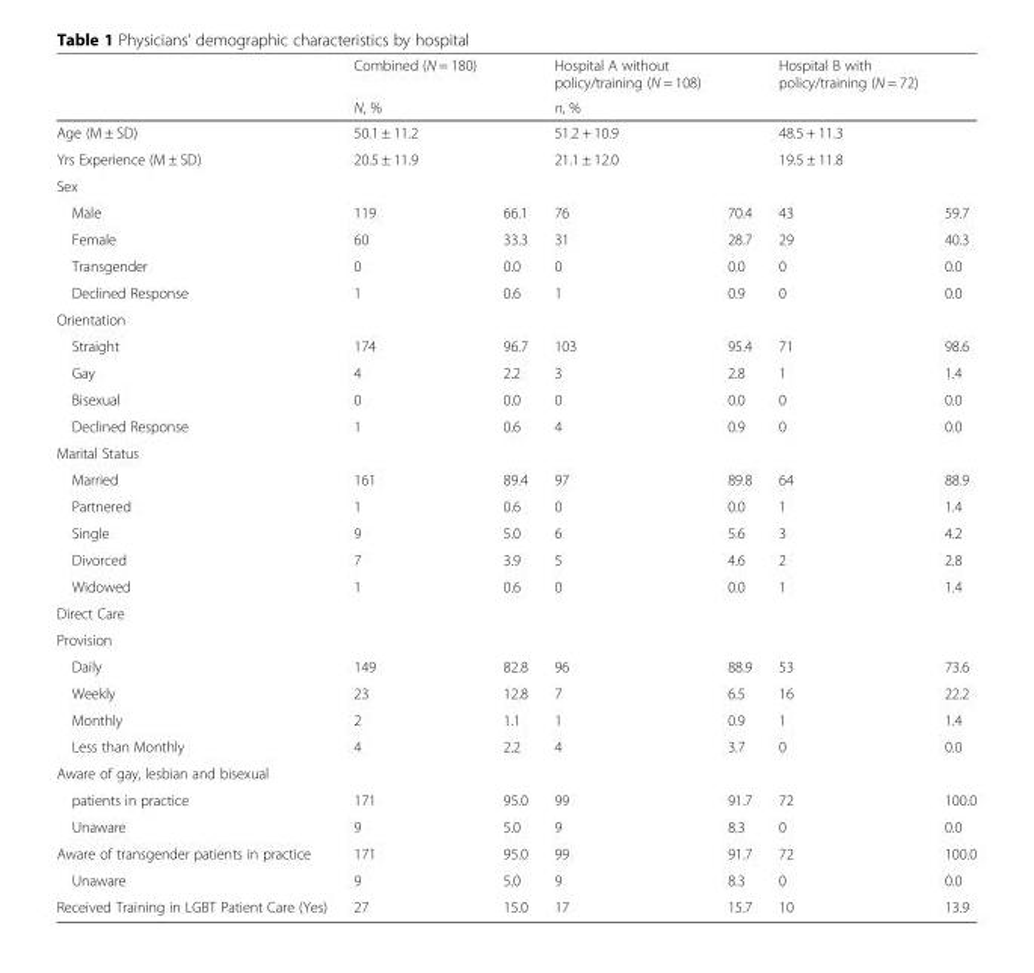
<table><thead><tr><td rowspan="2"></td><td>Combined (N = 180)</td><td></td><td>Hospital A without policy/training (N = 108)</td><td></td><td>Hospital B with policy/training (N = 72)</td><td></td></tr><tr><td colspan="2">N, %</td><td colspan="4">n, %</td></tr></thead><tbody><tr><td>Age (M ± SD)</td><td colspan="2">50.1 ± 11.2</td><td colspan="2">51.2 + 10.9</td><td colspan="2">48.5 + 11.3</td></tr><tr><td>Yrs Experience (M ± SD)</td><td colspan="2">20.5 ± 11.9</td><td colspan="2">21.1 ± 12.0</td><td colspan="2">19.5 ± 11.8</td></tr><tr><td colspan="7">Sex</td></tr><tr><td>Male</td><td>119</td><td>66.1</td><td>76</td><td>70.4</td><td>43</td><td>59.7</td></tr><tr><td>Female</td><td>60</td><td>33.3</td><td>31</td><td>28.7</td><td>29</td><td>40.3</td></tr><tr><td>Transgender</td><td>0</td><td>0.0</td><td>0</td><td>0.0</td><td>0</td><td>0.0</td></tr><tr><td>Declined Response</td><td>1</td><td>0.6</td><td>1</td><td>0.9</td><td>0</td><td>0.0</td></tr><tr><td colspan="7">Orientation</td></tr><tr><td>Straight</td><td>174</td><td>96.7</td><td>103</td><td>95.4</td><td>71</td><td>98.6</td></tr><tr><td>Gay</td><td>4</td><td>2.2</td><td>3</td><td>2.8</td><td>1</td><td>1.4</td></tr><tr><td>Bisexual</td><td>0</td><td>0.0</td><td>0</td><td>0.0</td><td>0</td><td>0.0</td></tr><tr><td>Declined Response</td><td>1</td><td>0.6</td><td>4</td><td>0.9</td><td>0</td><td>0.0</td></tr><tr><td colspan="7">Marital Status</td></tr><tr><td>Married</td><td>161</td><td>89.4</td><td>97</td><td>89.8</td><td>64</td><td>88.9</td></tr><tr><td>Partnered</td><td>1</td><td>0.6</td><td>0</td><td>0.0</td><td>1</td><td>1.4</td></tr><tr><td>Single</td><td>9</td><td>5.0</td><td>6</td><td>5.6</td><td>3</td><td>4.2</td></tr><tr><td>Divorced</td><td>7</td><td>3.9</td><td>5</td><td>4.6</td><td>2</td><td>2.8</td></tr><tr><td>Widowed</td><td>1</td><td>0.6</td><td>0</td><td>0.0</td><td>1</td><td>1.4</td></tr><tr><td colspan="7">Direct Care</td></tr><tr><td colspan="7">Provision</td></tr><tr><td>Daily</td><td>149</td><td>82.8</td><td>96</td><td>88.9</td><td>53</td><td>73.6</td></tr><tr><td>Weekly</td><td>23</td><td>12.8</td><td>7</td><td>6.5</td><td>16</td><td>22.2</td></tr><tr><td>Monthly</td><td>2</td><td>1.1</td><td>1</td><td>0.9</td><td>1</td><td>1.4</td></tr><tr><td>Less than Monthly</td><td>4</td><td>2.2</td><td>4</td><td>3.7</td><td>0</td><td>0.0</td></tr><tr><td colspan="7">Aware of gay, lesbian and bisexual</td></tr><tr><td>patients in practice</td><td>171</td><td>95.0</td><td>99</td><td>91.7</td><td>72</td><td>100.0</td></tr><tr><td>Unaware</td><td>9</td><td>5.0</td><td>9</td><td>8.3</td><td>0</td><td>0.0</td></tr><tr><td>Aware of transgender patients in practice</td><td>171</td><td>95.0</td><td>99</td><td>91.7</td><td>72</td><td>100.0</td></tr><tr><td>Unaware</td><td>9</td><td>5.0</td><td>9</td><td>8.3</td><td>0</td><td>0.0</td></tr><tr><td>Received Training in LGBT Patient Care (Yes)</td><td>27</td><td>15.0</td><td>17</td><td>15.7</td><td>10</td><td>13.9</td></tr></tbody></table>